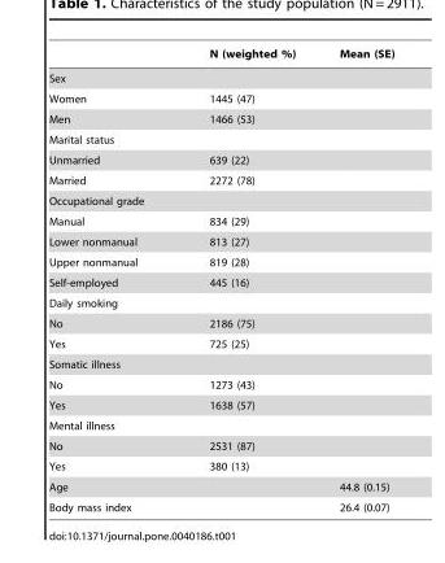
<table><thead><tr><td></td><td>N (weighted %)</td><td>Mean (SE)</td></tr></thead><tbody><tr><td colspan="3">Sex</td></tr><tr><td>Women</td><td>1445 (47)</td><td></td></tr><tr><td>Men</td><td>1466 (53)</td><td></td></tr><tr><td colspan="3">Marital status</td></tr><tr><td>Unmarried</td><td>639 (22)</td><td></td></tr><tr><td>Married</td><td>2272 (78)</td><td></td></tr><tr><td colspan="3">Occupational grade</td></tr><tr><td>Manual</td><td>834 (29)</td><td></td></tr><tr><td>Lower nonmanual</td><td>813 (27)</td><td></td></tr><tr><td>Upper nonmanual</td><td>819 (28)</td><td></td></tr><tr><td>Self-employed</td><td>445 (16)</td><td></td></tr><tr><td colspan="3">Daily smoking</td></tr><tr><td>No</td><td>2186 (75)</td><td></td></tr><tr><td>Yes</td><td>725 (25)</td><td></td></tr><tr><td colspan="3">Somatic illness</td></tr><tr><td>No</td><td>1273 (43)</td><td></td></tr><tr><td>Yes</td><td>1638 (57)</td><td></td></tr><tr><td colspan="3">Mental illness</td></tr><tr><td>No</td><td>2531 (87)</td><td></td></tr><tr><td>Yes</td><td>380 (13)</td><td></td></tr><tr><td>Age</td><td></td><td>44.8 (0.15)</td></tr><tr><td>Body mass index</td><td></td><td>26.4 (0.07)</td></tr></tbody></table>